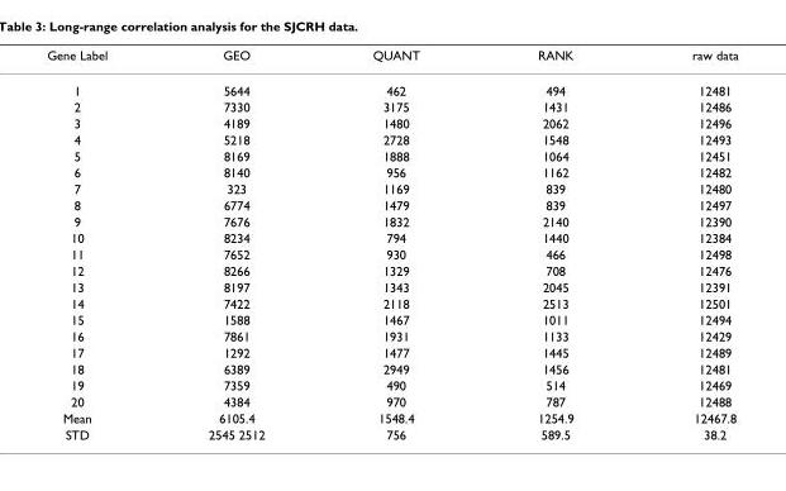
<table><thead><tr><td>Gene Label</td><td>GEO</td><td>QUANT</td><td>RANK</td><td>raw data</td></tr></thead><tbody><tr><td>1</td><td>5644</td><td>462</td><td>494</td><td>12481</td></tr><tr><td>2</td><td>7330</td><td>3175</td><td>1431</td><td>12486</td></tr><tr><td>3</td><td>4189</td><td>1480</td><td>2062</td><td>12496</td></tr><tr><td>4</td><td>5218</td><td>2728</td><td>1548</td><td>12493</td></tr><tr><td>5</td><td>8169</td><td>1888</td><td>1064</td><td>12451</td></tr><tr><td>6</td><td>8140</td><td>956</td><td>1162</td><td>12482</td></tr><tr><td>7</td><td>323</td><td>1169</td><td>839</td><td>12480</td></tr><tr><td>8</td><td>6774</td><td>1479</td><td>839</td><td>12497</td></tr><tr><td>9</td><td>7676</td><td>1832</td><td>2140</td><td>12390</td></tr><tr><td>10</td><td>8234</td><td>794</td><td>1440</td><td>12384</td></tr><tr><td>11</td><td>7652</td><td>930</td><td>466</td><td>12498</td></tr><tr><td>12</td><td>8266</td><td>1329</td><td>708</td><td>12476</td></tr><tr><td>13</td><td>8197</td><td>1343</td><td>2045</td><td>12391</td></tr><tr><td>14</td><td>7422</td><td>2118</td><td>2513</td><td>12501</td></tr><tr><td>15</td><td>1588</td><td>1467</td><td>1011</td><td>12494</td></tr><tr><td>16</td><td>7861</td><td>1931</td><td>1133</td><td>12429</td></tr><tr><td>17</td><td>1292</td><td>1477</td><td>1445</td><td>12489</td></tr><tr><td>18</td><td>6389</td><td>2949</td><td>1456</td><td>12481</td></tr><tr><td>19</td><td>7359</td><td>490</td><td>514</td><td>12469</td></tr><tr><td>20</td><td>4384</td><td>970</td><td>787</td><td>12488</td></tr><tr><td>Mean</td><td>6105.4</td><td>1548.4</td><td>1254.9</td><td>12467.8</td></tr><tr><td>STD</td><td>2545 2512</td><td>756</td><td>589.5</td><td>38.2</td></tr></tbody></table>